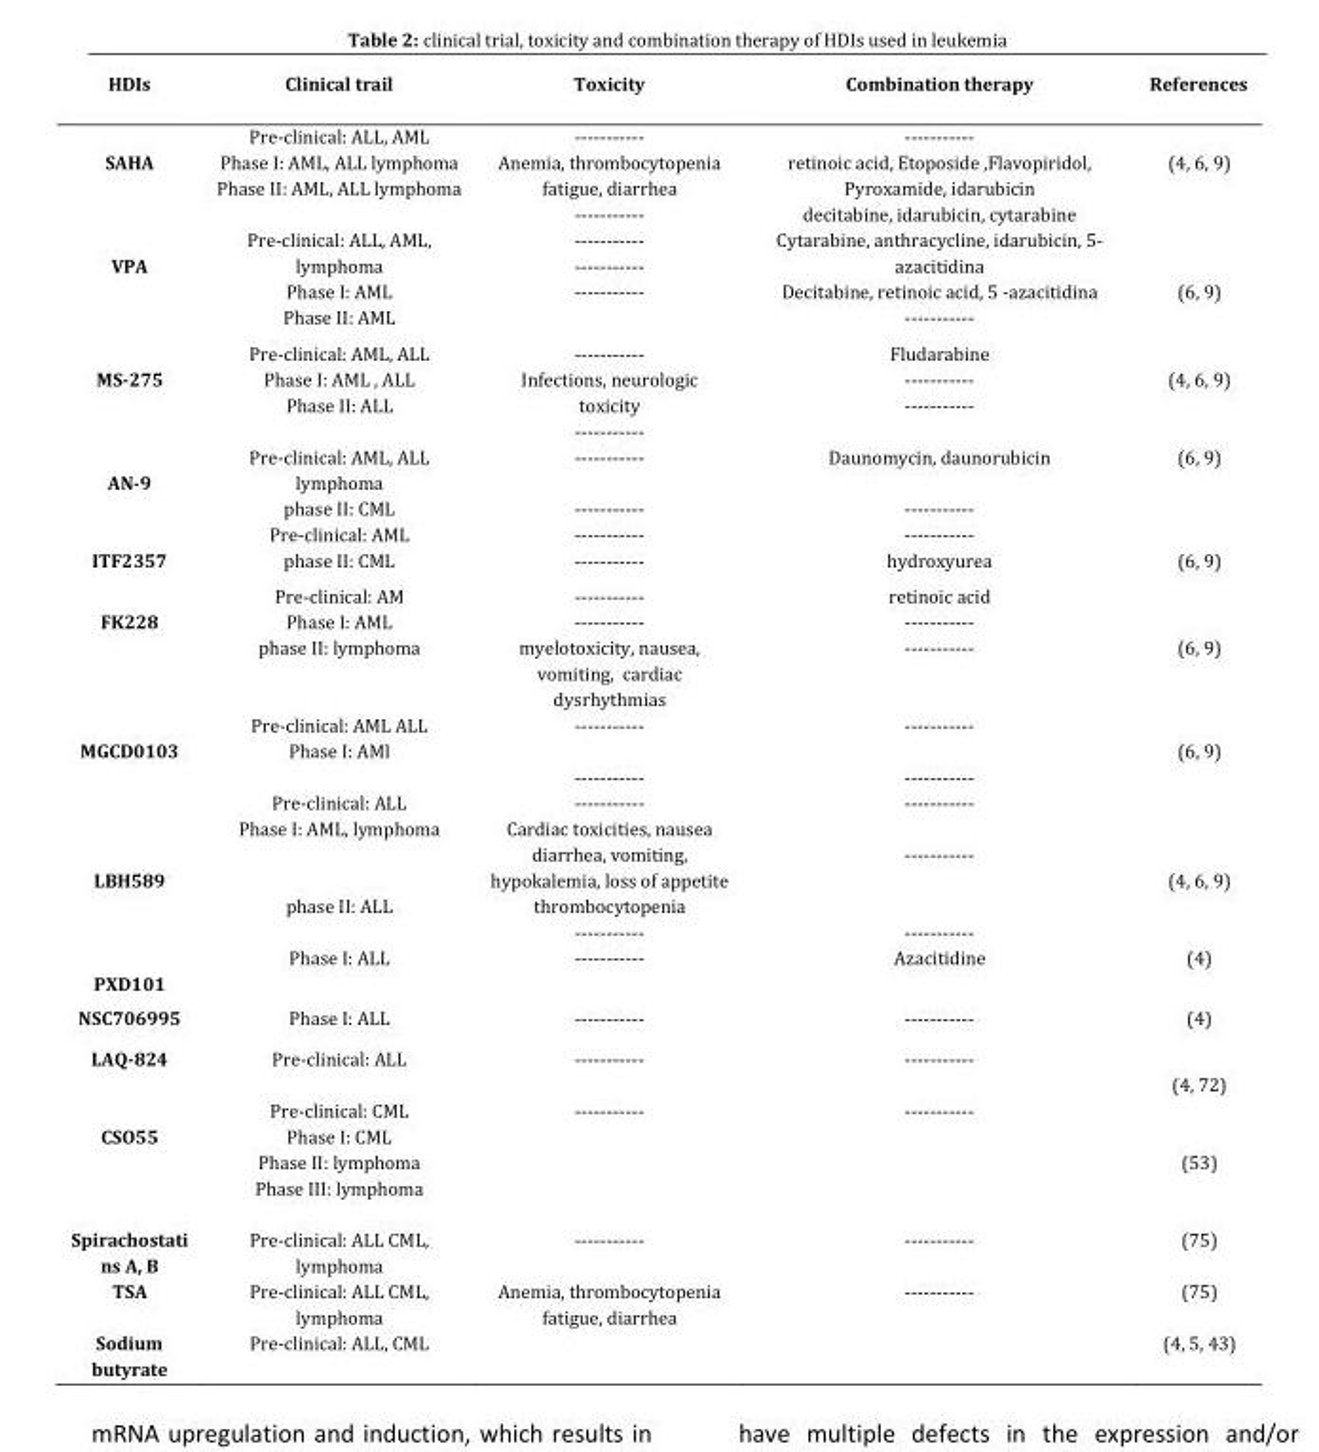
<table><thead><tr><td>HDIs</td><td>Clinical trail</td><td>Toxicity</td><td>Combination therapy</td><td>References</td></tr></thead><tbody><tr><td>SAHA</td><td>Pre-clinical: ALL, AML Phase I: AML, ALL lymphoma Phase II: AML, ALL lymphoma</td><td>----------- Anemia, thrombocytopenia fatigue, diarrhea -----------</td><td>----------- retinoic acid, Etoposide ,Flavopiridol, Pyroxamide, idarubicin decitabine, idarubicin, cytarabine</td><td>(4, 6, 9)</td></tr><tr><td>VPA</td><td>Pre-clinical: ALL, AML, lymphoma Phase I: AML Phase II: AML</td><td>----------- ----------- -----------</td><td>Cytarabine, anthracycline, idarubicin, 5- azacitidina Decitabine, retinoic acid, 5 -azacitidina -----------</td><td>(6, 9)</td></tr><tr><td>MS-275</td><td>Pre-clinical: AML, ALL Phase I: AML , ALL Phase II: ALL</td><td>----------- Infections, neurologic toxicity -----------</td><td>Fludarabine ----------- -----------</td><td>(4, 6, 9)</td></tr><tr><td>AN-9</td><td>Pre-clinical: AML, ALL lymphoma phase II: CML</td><td>----------- -----------</td><td>Daunomycin, daunorubicin -----------</td><td>(6, 9)</td></tr><tr><td>ITF2357</td><td>Pre-clinical: AML phase II: CML</td><td>----------- -----------</td><td>----------- hydroxyurea</td><td>(6, 9)</td></tr><tr><td>FK228</td><td>Pre-clinical: AM Phase I: AML phase II: lymphoma</td><td>----------- ----------- myelotoxicity, nausea, vomiting, cardiac dysrhythmias</td><td>retinoic acid ----------- -----------</td><td>(6, 9)</td></tr><tr><td>MGCD0103</td><td>Pre-clinical: AML ALL Phase I: AMl</td><td>----------- -----------</td><td>----------- -----------</td><td>(6, 9)</td></tr><tr><td>LBH589</td><td>Pre-clinical: ALL Phase I: AML, lymphoma phase II: ALL</td><td>----------- Cardiac toxicities, nausea diarrhea, vomiting, hypokalemia, loss of appetite thrombocytopenia -----------</td><td>----------- ----------- -----------</td><td>(4, 6, 9)</td></tr><tr><td>PXD101</td><td>Phase I: ALL</td><td>-----------</td><td>Azacitidine</td><td>(4)</td></tr><tr><td>NSC706995</td><td>Phase I: ALL</td><td>-----------</td><td>-----------</td><td>(4)</td></tr><tr><td>LAQ-824</td><td>Pre-clinical: ALL</td><td>-----------</td><td>-----------</td><td>(4, 72)</td></tr><tr><td>CSO55</td><td>Pre-clinical: CML Phase I: CML Phase II: lymphoma Phase III: lymphoma</td><td>-----------</td><td>-----------</td><td>(53)</td></tr><tr><td>Spirachostati ns A, B</td><td>Pre-clinical: ALL CML, lymphoma</td><td>-----------</td><td>-----------</td><td>(75)</td></tr><tr><td>TSA</td><td>Pre-clinical: ALL CML, lymphoma</td><td>Anemia, thrombocytopenia fatigue, diarrhea</td><td>-----------</td><td>(75)</td></tr><tr><td>Sodium butyrate</td><td>Pre-clinical: ALL, CML</td><td></td><td></td><td>(4, 5, 43)</td></tr></tbody></table>